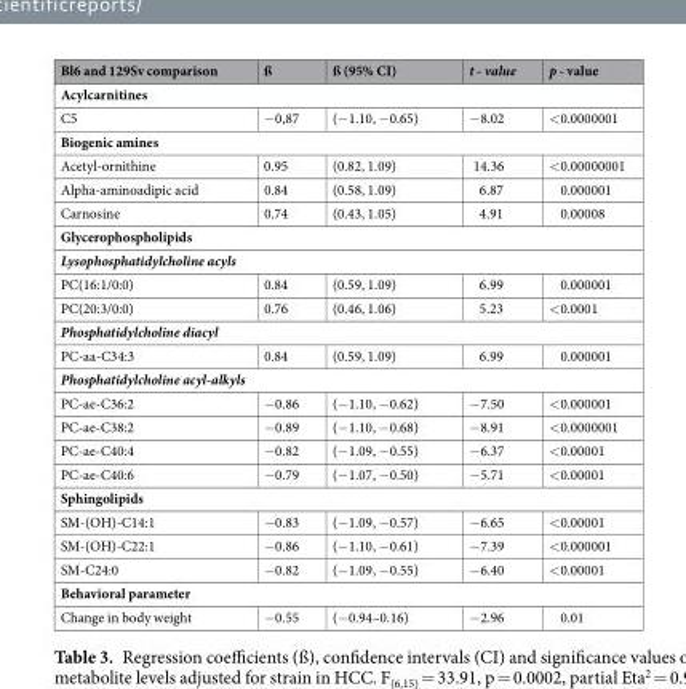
<table><thead><tr><td>Bl6 and 129Sv comparison</td><td>ß</td><td>ß (95% CI)</td><td>t - value</td><td>p - value</td></tr></thead><tbody><tr><td colspan="5">Acylcarnitines</td></tr><tr><td>C5</td><td>−0,87</td><td>(−1.10, −0.65)</td><td>−8.02</td><td>&lt;0.0000001</td></tr><tr><td colspan="5">Biogenic amines</td></tr><tr><td>Acetyl-ornithine</td><td>0.95</td><td>(0.82, 1.09)</td><td>14.36</td><td>&lt;0.00000001</td></tr><tr><td>Alpha-aminoadipic acid</td><td>0.84</td><td>(0.58, 1.09)</td><td>6.87</td><td>0.000001</td></tr><tr><td>Carnosine</td><td>0.74</td><td>(0.43, 1.05)</td><td>4.91</td><td>0.00008</td></tr><tr><td colspan="5">Glycerophospholipids</td></tr><tr><td colspan="5">Lysophosphatidylcholine acyls</td></tr><tr><td>PC(16:1/0:0)</td><td>0.84</td><td>(0.59, 1.09)</td><td>6.99</td><td>0.000001</td></tr><tr><td>PC(20:3/0:0)</td><td>0.76</td><td>(0.46, 1.06)</td><td>5.23</td><td>&lt;0.0001</td></tr><tr><td colspan="5">Phosphatidylcholine diacyl</td></tr><tr><td>PC-aa-C34:3</td><td>0.84</td><td>(0.59, 1.09)</td><td>6.99</td><td>0.000001</td></tr><tr><td colspan="5">Phosphatidylcholine acyl-alkyls</td></tr><tr><td>PC-ae-C36:2</td><td>−0.86</td><td>(−1.10, −0.62)</td><td>−7.50</td><td>&lt;0.000001</td></tr><tr><td>PC-ae-C38:2</td><td>−0.89</td><td>(−1.10, −0.68)</td><td>−8.91</td><td>&lt;0.0000001</td></tr><tr><td>PC-ae-C40:4</td><td>−0.82</td><td>(−1.09, −0.55)</td><td>−6.37</td><td>&lt;0.00001</td></tr><tr><td>PC-ae-C40:6</td><td>−0.79</td><td>(−1.07, −0.50)</td><td>−5.71</td><td>&lt;0.00001</td></tr><tr><td colspan="5">Sphingolipids</td></tr><tr><td>SM-(OH)-C14:1</td><td>−0.83</td><td>(−1.09, −0.57)</td><td>−6.65</td><td>&lt;0.00001</td></tr><tr><td>SM-(OH)-C22:1</td><td>−0.86</td><td>(−1.10, −0.61)</td><td>−7.39</td><td>&lt;0.000001</td></tr><tr><td>SM-C24:0</td><td>−0.82</td><td>(−1.09, −0.55)</td><td>−6.40</td><td>&lt;0.00001</td></tr><tr><td colspan="5">Behavioral parameter</td></tr><tr><td>Change in body weight</td><td>−0.55</td><td>(−0.94–0.16)</td><td>−2.96</td><td>0.01</td></tr></tbody></table>